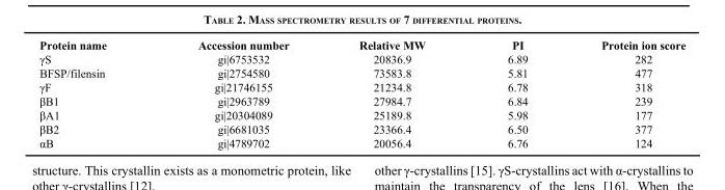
<table><thead><tr><td>Protein name</td><td>Accession number</td><td>Relative MW</td><td>PI</td><td>Protein ion score</td></tr></thead><tbody><tr><td>γS</td><td>gi|6753532</td><td>20836.9</td><td>6.89</td><td>282</td></tr><tr><td>BFSP/filensin</td><td>gi|2754580</td><td>73583.8</td><td>5.81</td><td>477</td></tr><tr><td>γF</td><td>gi|21746155</td><td>21234.8</td><td>6.78</td><td>318</td></tr><tr><td>βB1</td><td>gi|2963789</td><td>27984.7</td><td>6.84</td><td>239</td></tr><tr><td>βA1</td><td>gi|20304089</td><td>25189.8</td><td>5.98</td><td>177</td></tr><tr><td>βB2</td><td>gi|6681035</td><td>23366.4</td><td>6.50</td><td>377</td></tr><tr><td>αB</td><td>gi|4789702</td><td>20056.4</td><td>6.76</td><td>124</td></tr></tbody></table>